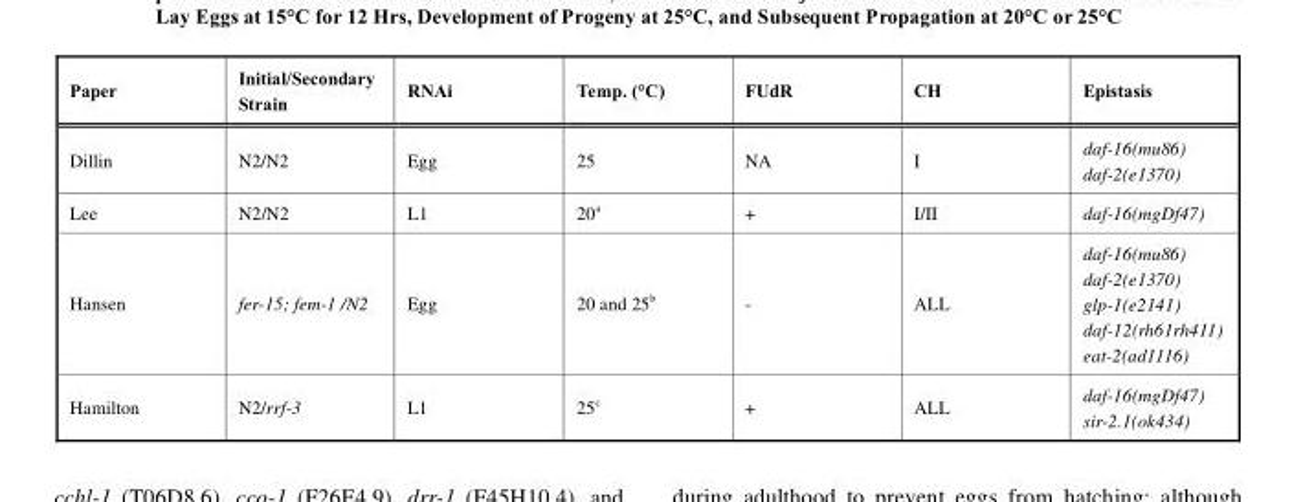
<table><thead><tr><td>Paper</td><td>Initial/Secondary Strain</td><td>RNAi</td><td>Temp. (°C)</td><td>FUdR</td><td>CH</td><td>Epistasis</td></tr></thead><tbody><tr><td>Dillin</td><td>N2/N2</td><td>Egg</td><td>25</td><td>NA</td><td>I</td><td>daf-16(mu86) daf-2(e1370)</td></tr><tr><td>Lee</td><td>N2/N2</td><td>L1</td><td>20<sup>a</sup></td><td>+</td><td>I/II</td><td>daf-16(mgDf47)</td></tr><tr><td>Hansen</td><td>fer-15; fem-1 /N2</td><td>Egg</td><td>20 and 25<sup>b</sup></td><td>-</td><td>ALL</td><td>daf-16(mu86) daf-2(e1370) glp-1(e2141) daf-12(rh61rh411) eat-2(ad1116)</td></tr><tr><td>Hamilton</td><td>N2/rrf-3</td><td>L1</td><td>25<sup>c</sup></td><td>+</td><td>ALL</td><td>daf-16(mgDf47) sir-2.1(ok434)</td></tr></tbody></table>